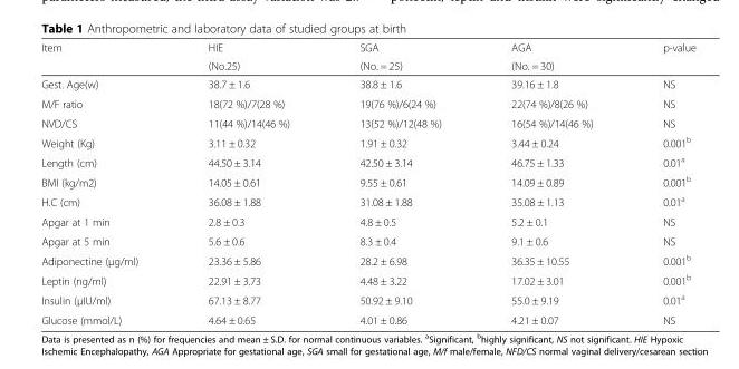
<table><thead><tr><td rowspan="2">Item</td><td rowspan="2">HIE (No.25)</td><td rowspan="2">SGA (No. = 25)</td><td rowspan="2">AGA (No. = 30)</td><td rowspan="2">p-value</td></tr><tr></tr></thead><tbody><tr><td>Gest. Age(w)</td><td>38.7 ± 1.6</td><td>38.8 ± 1.6</td><td>39.16 ± 1.8</td><td>NS</td></tr><tr><td>M/F ratio</td><td>18(72 %)/7(28 %)</td><td>19(76 %)/6(24 %)</td><td>22(74 %)/8(26 %)</td><td>NS</td></tr><tr><td>NVD/CS</td><td>11(44 %)/14(46 %)</td><td>13(52 %)/12(48 %)</td><td>16(54 %)/14(46 %)</td><td>NS</td></tr><tr><td>Weight (Kg)</td><td>3.11 ± 0.32</td><td>1.91 ± 0.32</td><td>3.44 ± 0.24</td><td>0.001<sup>b</sup></td></tr><tr><td>Length (cm)</td><td>44.50 ± 3.14</td><td>42.50 ± 3.14</td><td>46.75 ± 1.33</td><td>0.01<sup>a</sup></td></tr><tr><td>BMI (kg/m2)</td><td>14.05 ± 0.61</td><td>9.55 ± 0.61</td><td>14.09 ± 0.89</td><td>0.001<sup>b</sup></td></tr><tr><td>H.C (cm)</td><td>36.08 ± 1.88</td><td>31.08 ± 1.88</td><td>35.08 ± 1.13</td><td>0.01<sup>a</sup></td></tr><tr><td>Apgar at 1 min</td><td>2.8 ± 0.3</td><td>4.8 ± 0.5</td><td>5.2 ± 0.1</td><td>NS</td></tr><tr><td>Apgar at 5 min</td><td>5.6 ± 0.6</td><td>8.3 ± 0.4</td><td>9.1 ± 0.6</td><td>NS</td></tr><tr><td>Adiponectine (μg/ml)</td><td>23.36 ± 5.86</td><td>28.2 ± 6.98</td><td>36.35 ± 10.55</td><td>0.001<sup>b</sup></td></tr><tr><td>Leptin (ng/ml)</td><td>22.91 ± 3.73</td><td>4.48 ± 3.22</td><td>17.02 ± 3.01</td><td>0.001<sup>b</sup></td></tr><tr><td>Insulin (μIU/ml)</td><td>67.13 ± 8.77</td><td>50.92 ± 9.10</td><td>55.0 ± 9.19</td><td>0.01<sup>a</sup></td></tr><tr><td>Glucose (mmol/L)</td><td>4.64 ± 0.65</td><td>4.01 ± 0.86</td><td>4.21 ± 0.07</td><td>NS</td></tr></tbody></table>